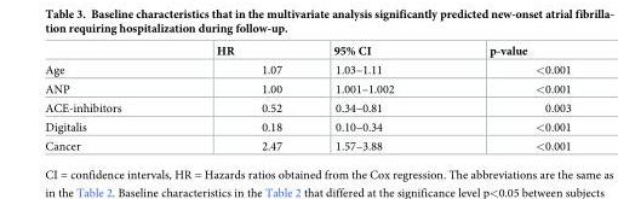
<table><thead><tr><td></td><td>HR</td><td>95% CI</td><td>p-value</td></tr></thead><tbody><tr><td>Age</td><td>1.07</td><td>1.03–1.11</td><td>&lt;0.001</td></tr><tr><td>ANP</td><td>1.00</td><td>1.001–1.002</td><td>&lt;0.001</td></tr><tr><td>ACE-inhibitors</td><td>0.52</td><td>0.34–0.81</td><td>0.003</td></tr><tr><td>Digitalis</td><td>0.18</td><td>0.10–0.34</td><td>&lt;0.001</td></tr><tr><td>Cancer</td><td>2.47</td><td>1.57–3.88</td><td>&lt;0.001</td></tr></tbody></table>